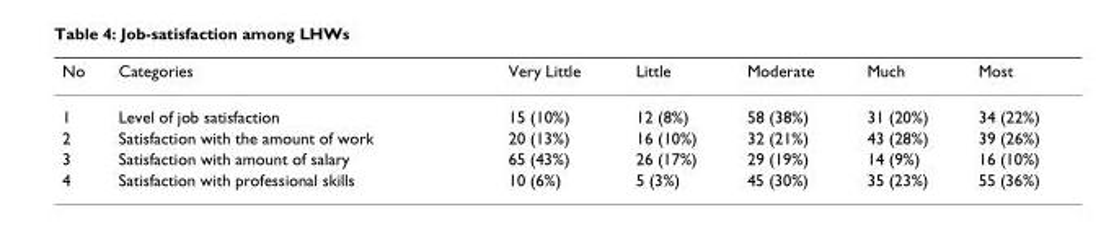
<table><thead><tr><td>No</td><td>Categories</td><td>Very Little</td><td>Little</td><td>Moderate</td><td>Much</td><td>Most</td></tr></thead><tbody><tr><td>1</td><td>Level of job satisfaction</td><td>15 (10%)</td><td>12 (8%)</td><td>58 (38%)</td><td>31 (20%)</td><td>34 (22%)</td></tr><tr><td>2</td><td>Satisfaction with the amount of work</td><td>20 (13%)</td><td>16 (10%)</td><td>32 (21%)</td><td>43 (28%)</td><td>39 (26%)</td></tr><tr><td>3</td><td>Satisfaction with amount of salary</td><td>65 (43%)</td><td>26 (17%)</td><td>29 (19%)</td><td>14 (9%)</td><td>16 (10%)</td></tr><tr><td>4</td><td>Satisfaction with professional skills</td><td>10 (6%)</td><td>5 (3%)</td><td>45 (30%)</td><td>35 (23%)</td><td>55 (36%)</td></tr></tbody></table>